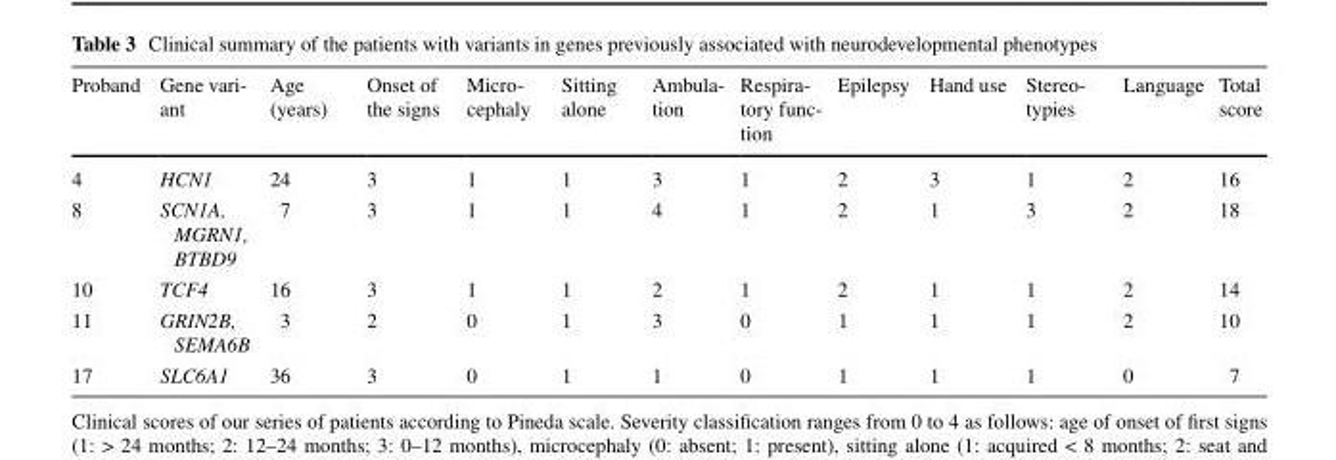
<table><thead><tr><td>Proband</td><td>Gene vari- ant</td><td>Age (years)</td><td>Onset of the signs</td><td>Micro- cephaly</td><td>Sitting alone</td><td>Ambula- tion</td><td>Respira- tory func- tion</td><td>Epilepsy</td><td>Hand use</td><td>Stereo- typies</td><td>Language</td><td>Total score</td></tr></thead><tbody><tr><td>4</td><td>HCN1</td><td>24</td><td>3</td><td>1</td><td>1</td><td>3</td><td>1</td><td>2</td><td>3</td><td>1</td><td>2</td><td>16</td></tr><tr><td>8</td><td>SCN1A, MGRN1, BTBD9</td><td>7</td><td>3</td><td>1</td><td>1</td><td>4</td><td>1</td><td>2</td><td>1</td><td>3</td><td>2</td><td>18</td></tr><tr><td>10</td><td>TCF4</td><td>16</td><td>3</td><td>1</td><td>1</td><td>2</td><td>1</td><td>2</td><td>1</td><td>1</td><td>2</td><td>14</td></tr><tr><td>11</td><td>GRIN2B, SEMA6B</td><td>3</td><td>2</td><td>0</td><td>1</td><td>3</td><td>0</td><td>1</td><td>1</td><td>1</td><td>2</td><td>10</td></tr><tr><td>17</td><td>SLC6A1</td><td>36</td><td>3</td><td>0</td><td>1</td><td>1</td><td>0</td><td>1</td><td>1</td><td>1</td><td>0</td><td>7</td></tr></tbody></table>